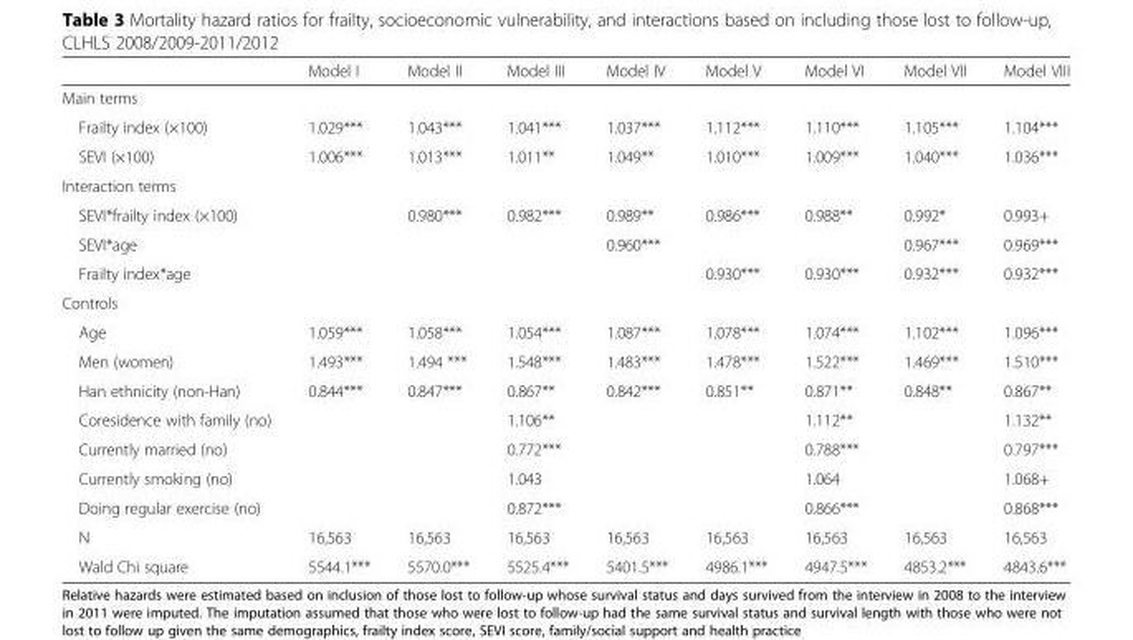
<table><thead><tr><td></td><td>Model I</td><td>Model II</td><td>Model III</td><td>Model IV</td><td>Model V</td><td>Model VI</td><td>Model VII</td><td>Model VIII</td></tr></thead><tbody><tr><td colspan="9">Main terms</td></tr><tr><td>Frailty index (×100)</td><td>1.029***</td><td>1.043***</td><td>1.041***</td><td>1.037***</td><td>1.112***</td><td>1.110***</td><td>1.105***</td><td>1.104***</td></tr><tr><td>SEVI (×100)</td><td>1.006***</td><td>1.013***</td><td>1.011**</td><td>1.049**</td><td>1.010***</td><td>1.009***</td><td>1.040***</td><td>1.036***</td></tr><tr><td colspan="9">Interaction terms</td></tr><tr><td>SEVI*frailty index (×100)</td><td></td><td>0.980***</td><td>0.982***</td><td>0.989**</td><td>0.986***</td><td>0.988**</td><td>0.992*</td><td>0.993+</td></tr><tr><td>SEVI*age</td><td></td><td></td><td></td><td>0.960***</td><td></td><td></td><td>0.967***</td><td>0.969***</td></tr><tr><td>Frailty index*age</td><td></td><td></td><td></td><td></td><td>0.930***</td><td>0.930***</td><td>0.932***</td><td>0.932***</td></tr><tr><td colspan="9">Controls</td></tr><tr><td>Age</td><td>1.059***</td><td>1.058***</td><td>1.054***</td><td>1.087***</td><td>1.078***</td><td>1.074***</td><td>1.102***</td><td>1.096***</td></tr><tr><td>Men (women)</td><td>1.493***</td><td>1.494 ***</td><td>1.548***</td><td>1.483***</td><td>1.478***</td><td>1.522***</td><td>1.469***</td><td>1.510***</td></tr><tr><td>Han ethnicity (non-Han)</td><td>0.844***</td><td>0.847***</td><td>0.867**</td><td>0.842***</td><td>0.851**</td><td>0.871**</td><td>0.848**</td><td>0.867**</td></tr><tr><td>Coresidence with family (no)</td><td></td><td></td><td>1.106**</td><td></td><td></td><td>1.112**</td><td></td><td>1.132**</td></tr><tr><td>Currently married (no)</td><td></td><td></td><td>0.772***</td><td></td><td></td><td>0.788***</td><td></td><td>0.797***</td></tr><tr><td>Currently smoking (no)</td><td></td><td></td><td>1.043</td><td></td><td></td><td>1.064</td><td></td><td>1.068+</td></tr><tr><td>Doing regular exercise (no)</td><td></td><td></td><td>0.872***</td><td></td><td></td><td>0.866***</td><td></td><td>0.868***</td></tr><tr><td>N</td><td>16,563</td><td>16,563</td><td>16,563</td><td>16,563</td><td>16,563</td><td>16,563</td><td>16,563</td><td>16,563</td></tr><tr><td>Wald Chi square</td><td>5544.1***</td><td>5570.0***</td><td>5525.4***</td><td>5401.5***</td><td>4986.1***</td><td>4947.5***</td><td>4853.2***</td><td>4843.6***</td></tr></tbody></table>